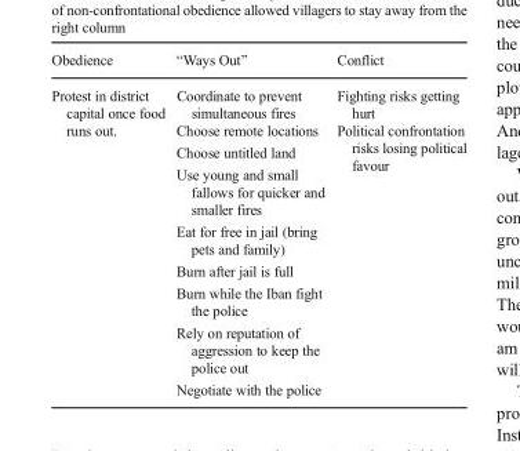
<table><thead><tr><td>Obedience</td><td>“Ways Out”</td><td>Conflict</td></tr></thead><tbody><tr><td rowspan="9">Protest in district capital once food runs out.</td><td>Coordinate to prevent simultaneous fires</td><td rowspan="9">Fighting risks getting hurt Political confrontation risks losing political favour</td></tr><tr><td>Choose remote locations</td></tr><tr><td>Choose untitled land</td></tr><tr><td>Use young and small fallows for quicker and smaller fires</td></tr><tr><td>Eat for free in jail (bring pets and family)</td></tr><tr><td>Burn after jail is full</td></tr><tr><td>Burn while the Iban fight the police</td></tr><tr><td>Rely on reputation of aggression to keep the police out</td></tr><tr><td>Negotiate with the police</td></tr></tbody></table>